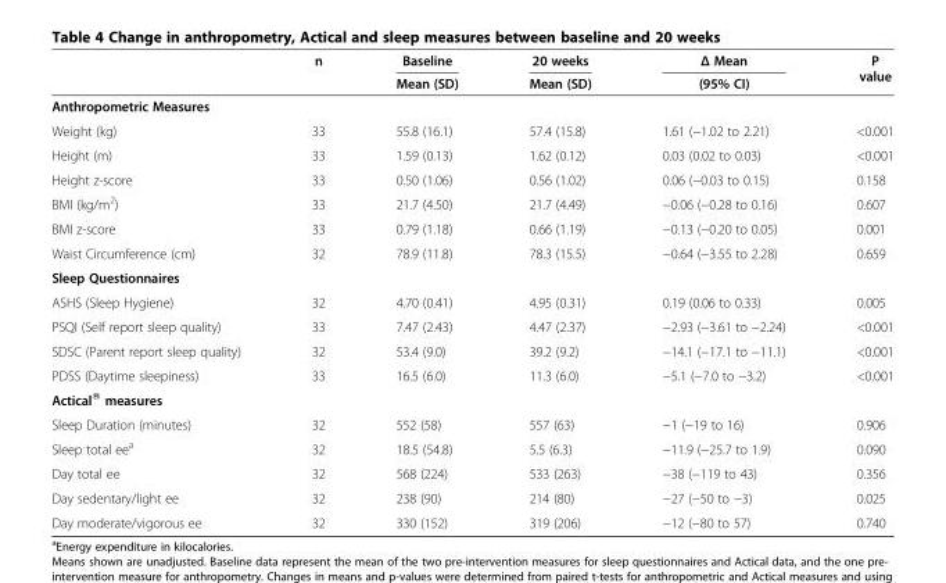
<table><thead><tr><td rowspan="2"></td><td rowspan="2">n</td><td rowspan="2">Baseline Mean (SD)</td><td rowspan="2">20 weeks Mean (SD)</td><td rowspan="2">Δ Mean (95% CI)</td><td rowspan="2">P value</td></tr><tr></tr></thead><tbody><tr><td colspan="6">Anthropometric Measures</td></tr><tr><td>Weight (kg)</td><td>33</td><td>55.8 (16.1)</td><td>57.4 (15.8)</td><td>1.61 (−1.02 to 2.21)</td><td>&lt;0.001</td></tr><tr><td>Height (m)</td><td>33</td><td>1.59 (0.13)</td><td>1.62 (0.12)</td><td>0.03 (0.02 to 0.03)</td><td>&lt;0.001</td></tr><tr><td>Height z-score</td><td>33</td><td>0.50 (1.06)</td><td>0.56 (1.02)</td><td>0.06 (−0.03 to 0.15)</td><td>0.158</td></tr><tr><td>BMI (kg/m<sup>2</sup>)</td><td>33</td><td>21.7 (4.50)</td><td>21.7 (4.49)</td><td>−0.06 (−0.28 to 0.16)</td><td>0.607</td></tr><tr><td>BMI z-score</td><td>33</td><td>0.79 (1.18)</td><td>0.66 (1.19)</td><td>−0.13 (−0.20 to 0.05)</td><td>0.001</td></tr><tr><td>Waist Circumference (cm)</td><td>32</td><td>78.9 (11.8)</td><td>78.3 (15.5)</td><td>−0.64 (−3.55 to 2.28)</td><td>0.659</td></tr><tr><td colspan="6">Sleep Questionnaires</td></tr><tr><td>ASHS (Sleep Hygiene)</td><td>32</td><td>4.70 (0.41)</td><td>4.95 (0.31)</td><td>0.19 (0.06 to 0.33)</td><td>0.005</td></tr><tr><td>PSQI (Self report sleep quality)</td><td>33</td><td>7.47 (2.43)</td><td>4.47 (2.37)</td><td>−2.93 (−3.61 to −2.24)</td><td>&lt;0.001</td></tr><tr><td>SDSC (Parent report sleep quality)</td><td>32</td><td>53.4 (9.0)</td><td>39.2 (9.2)</td><td>−14.1 (−17.1 to −11.1)</td><td>&lt;0.001</td></tr><tr><td>PDSS (Daytime sleepiness)</td><td>33</td><td>16.5 (6.0)</td><td>11.3 (6.0)</td><td>−5.1 (−7.0 to −3.2)</td><td>&lt;0.001</td></tr><tr><td colspan="6">Actical® measures</td></tr><tr><td>Sleep Duration (minutes)</td><td>32</td><td>552 (58)</td><td>557 (63)</td><td>−1 (−19 to 16)</td><td>0.906</td></tr><tr><td>Sleep total ee<sup>a</sup></td><td>32</td><td>18.5 (54.8)</td><td>5.5 (6.3)</td><td>−11.9 (−25.7 to 1.9)</td><td>0.090</td></tr><tr><td>Day total ee</td><td>32</td><td>568 (224)</td><td>533 (263)</td><td>−38 (−119 to 43)</td><td>0.356</td></tr><tr><td>Day sedentary/light ee</td><td>32</td><td>238 (90)</td><td>214 (80)</td><td>−27 (−50 to −3)</td><td>0.025</td></tr><tr><td>Day moderate/vigorous ee</td><td>32</td><td>330 (152)</td><td>319 (206)</td><td>−12 (−80 to 57)</td><td>0.740</td></tr></tbody></table>